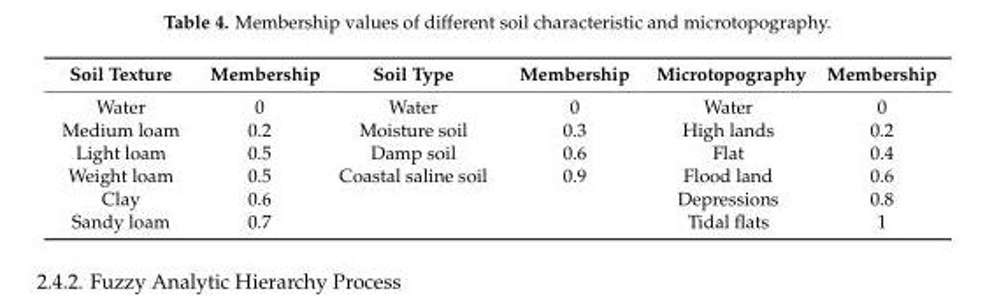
<table><thead><tr><td>Soil Texture</td><td>Membership</td><td>Soil Type</td><td>Membership</td><td>Microtopography</td><td>Membership</td></tr></thead><tbody><tr><td>Water</td><td>0</td><td>Water</td><td>0</td><td>Water</td><td>0</td></tr><tr><td>Medium loam</td><td>0.2</td><td>Moisture soil</td><td>0.3</td><td>High lands</td><td>0.2</td></tr><tr><td>Light loam</td><td>0.5</td><td>Damp soil</td><td>0.6</td><td>Flat</td><td>0.4</td></tr><tr><td>Weight loam</td><td>0.5</td><td>Coastal saline soil</td><td>0.9</td><td>Flood land</td><td>0.6</td></tr><tr><td>Clay</td><td>0.6</td><td></td><td></td><td>Depressions</td><td>0.8</td></tr><tr><td>Sandy loam</td><td>0.7</td><td></td><td></td><td>Tidal flats</td><td>1</td></tr></tbody></table>